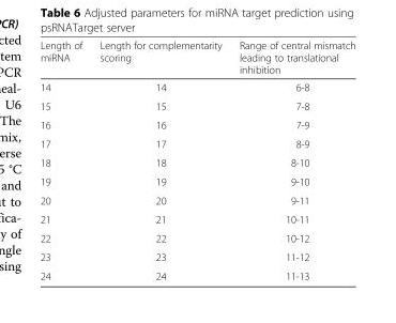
<table><thead><tr><td>Length of miRNA</td><td>Length for complementarity scoring</td><td>Range of central mismatch leading to translational inhibition</td></tr></thead><tbody><tr><td>14</td><td>14</td><td>6-8</td></tr><tr><td>15</td><td>15</td><td>7-8</td></tr><tr><td>16</td><td>16</td><td>7-9</td></tr><tr><td>17</td><td>17</td><td>8-9</td></tr><tr><td>18</td><td>18</td><td>8-10</td></tr><tr><td>19</td><td>19</td><td>9-10</td></tr><tr><td>20</td><td>20</td><td>9-11</td></tr><tr><td>21</td><td>21</td><td>10-11</td></tr><tr><td>22</td><td>22</td><td>10-12</td></tr><tr><td>23</td><td>23</td><td>11-12</td></tr><tr><td>24</td><td>24</td><td>11-13</td></tr></tbody></table>